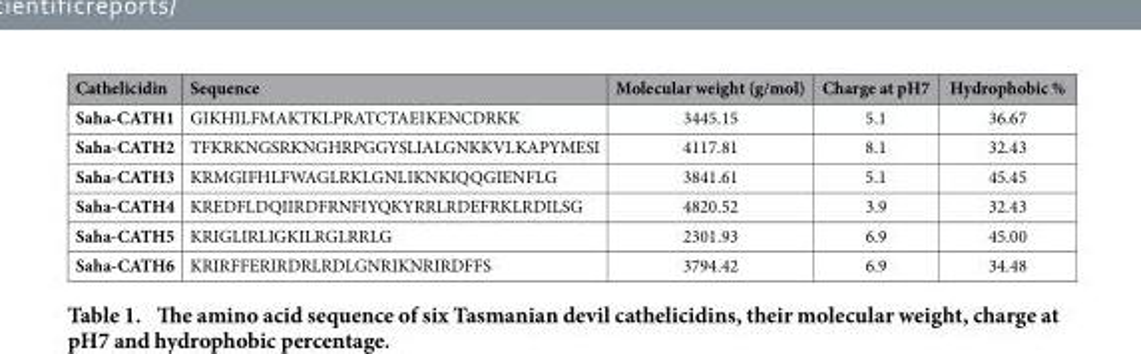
<table><thead><tr><td>Cathelicidin</td><td>Sequence</td><td>Molecular weight (g/mol)</td><td>Charge at pH7</td><td>Hydrophobic %</td></tr></thead><tbody><tr><td>Saha-CATH1</td><td>GIKHILFMAKTKLPRATCTAEIKENCDRKK</td><td>3445.15</td><td>5.1</td><td>36.67</td></tr><tr><td>Saha-CATH2</td><td>TFKRKNGSRKNGHRPGGYSLIALGNKKVLKAPYMESI</td><td>4117.81</td><td>8.1</td><td>32.43</td></tr><tr><td>Saha-CATH3</td><td>KRMGIFHLFWAGLRKLGNLIKNKIQQGIENFLG</td><td>3841.61</td><td>5.1</td><td>45.45</td></tr><tr><td>Saha-CATH4</td><td>KREDFLDQIIRDFRNFIYQKYRRLRDEFRKLRDILSG</td><td>4820.52</td><td>3.9</td><td>32.43</td></tr><tr><td>Saha-CATH5</td><td>KRIGLIRLIGKILRGLRRLG</td><td>2301.93</td><td>6.9</td><td>45.00</td></tr><tr><td>Saha-CATH6</td><td>KRIRFFERIRDRLRDLGNRIKNRIRDFFS</td><td>3794.42</td><td>6.9</td><td>34.48</td></tr></tbody></table>